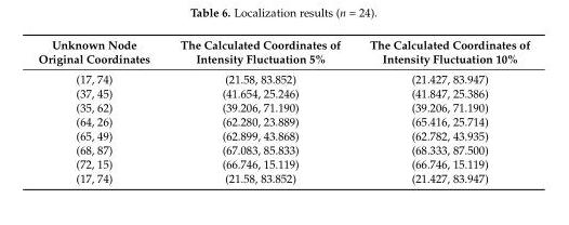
<table><thead><tr><td>Unknown Node Original Coordinates</td><td>The Calculated Coordinates of Intensity Fluctuation 5%</td><td>The Calculated Coordinates of Intensity Fluctuation 10%</td></tr></thead><tbody><tr><td>(17, 74)</td><td>(21.58, 83.852)</td><td>(21.427, 83.947)</td></tr><tr><td>(37, 45)</td><td>(41.654, 25.246)</td><td>(41.847, 25.386)</td></tr><tr><td>(35, 62)</td><td>(39.206, 71.190)</td><td>(39.206, 71.190)</td></tr><tr><td>(64, 26)</td><td>(62.280, 23.889)</td><td>(65.416, 25.714)</td></tr><tr><td>(65, 49)</td><td>(62.899, 43.868)</td><td>(62.782, 43.935)</td></tr><tr><td>(68, 87)</td><td>(67.083, 85.833)</td><td>(68.333, 87.500)</td></tr><tr><td>(72, 15)</td><td>(66.746, 15.119)</td><td>(66.746, 15.119)</td></tr><tr><td>(17, 74)</td><td>(21.58, 83.852)</td><td>(21.427, 83.947)</td></tr></tbody></table>